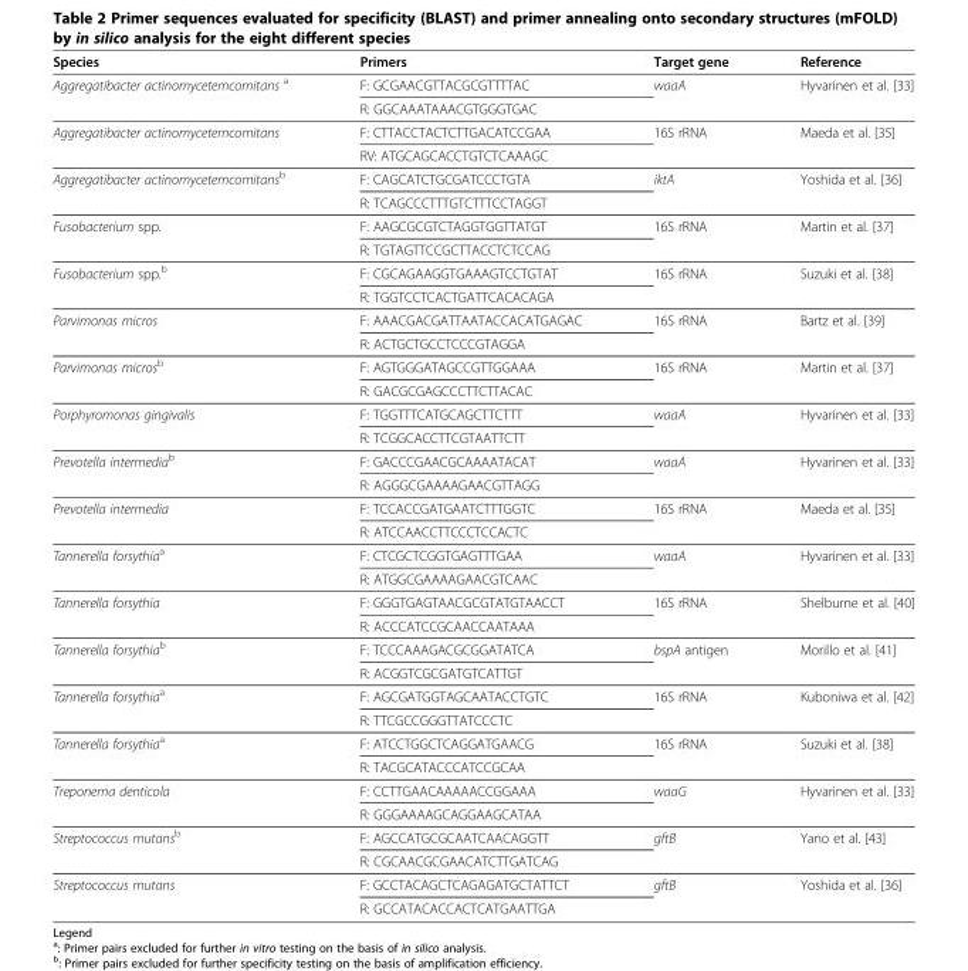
<table><thead><tr><td>Species</td><td>Primers</td><td>Target gene</td><td>Reference</td></tr></thead><tbody><tr><td rowspan="2">Aggregatibacter actinomycetemcomitans <sup>a</sup></td><td>F: GCGAACGTTACGCGTTTTAC</td><td rowspan="2">waaA</td><td rowspan="2">Hyvarinen et al. [33]</td></tr><tr><td>R: GGCAAATAAACGTGGGTGAC</td></tr><tr><td rowspan="2">Aggregatibacter actinomycetemcomitans</td><td>F: CTTACCTACTCTTGACATCCGAA</td><td rowspan="2">16S rRNA</td><td rowspan="2">Maeda et al. [35]</td></tr><tr><td>RV: ATGCAGCACCTGTCTCAAAGC</td></tr><tr><td rowspan="2">Aggregatibacter actinomycetemcomitans<sup>b</sup></td><td>F: CAGCATCTGCGATCCCTGTA</td><td rowspan="2">iktA</td><td rowspan="2">Yoshida et al. [36]</td></tr><tr><td>R: TCAGCCCTTTGTCTTTCCTAGGT</td></tr><tr><td rowspan="2">Fusobacterium spp.</td><td>F: AAGCGCGTCTAGGTGGTTATGT</td><td rowspan="2">16S rRNA</td><td rowspan="2">Martin et al. [37]</td></tr><tr><td>R: TGTAGTTCCGCTTACCTCTCCAG</td></tr><tr><td rowspan="2">Fusobacterium spp.<sup>b</sup></td><td>F: CGCAGAAGGTGAAAGTCCTGTAT</td><td rowspan="2">16S rRNA</td><td rowspan="2">Suzuki et al. [38]</td></tr><tr><td>R: TGGTCCTCACTGATTCACACAGA</td></tr><tr><td rowspan="2">Parvimonas micros</td><td>F: AAACGACGATTAATACCACATGAGAC</td><td rowspan="2">16S rRNA</td><td rowspan="2">Bartz et al. [39]</td></tr><tr><td>R: ACTGCTGCCTCCCGTAGGA</td></tr><tr><td rowspan="2">Parvimonas micros<sup>b</sup></td><td>F: AGTGGGATAGCCGTTGGAAA</td><td rowspan="2">16S rRNA</td><td rowspan="2">Martin et al. [37]</td></tr><tr><td>R: GACGCGAGCCCTTCTTACAC</td></tr><tr><td rowspan="2">Porphyromonas gingivalis</td><td>F: TGGTTTCATGCAGCTTCTTT</td><td rowspan="2">waaA</td><td rowspan="2">Hyvarinen et al. [33]</td></tr><tr><td>R: TCGGCACCTTCGTAATTCTT</td></tr><tr><td rowspan="2">Prevotella intermedia<sup>b</sup></td><td>F: GACCCGAACGCAAAATACAT</td><td rowspan="2">waaA</td><td rowspan="2">Hyvarinen et al. [33]</td></tr><tr><td>R: AGGGCGAAAAGAACGTTAGG</td></tr><tr><td rowspan="2">Prevotella intermedia</td><td>F: TCCACCGATGAATCTTTGGTC</td><td rowspan="2">16S rRNA</td><td rowspan="2">Maeda et al. [35]</td></tr><tr><td>R: ATCCAACCTTCCCTCCACTC</td></tr><tr><td rowspan="2">Tannerella forsythia<sup>a</sup></td><td>F: CTCGCTCGGTGAGTTTGAA</td><td rowspan="2">waaA</td><td rowspan="2">Hyvarinen et al. [33]</td></tr><tr><td>R: ATGGCGAAAAGAACGTCAAC</td></tr><tr><td rowspan="2">Tannerella forsythia</td><td>F: GGGTGAGTAACGCGTATGTAACCT</td><td rowspan="2">16S rRNA</td><td rowspan="2">Shelburne et al. [40]</td></tr><tr><td>R: ACCCATCCGCAACCAATAAA</td></tr><tr><td rowspan="2">Tannerella forsythia<sup>b</sup></td><td>F: TCCCAAAGACGCGGATATCA</td><td rowspan="2">bspA antigen</td><td rowspan="2">Morillo et al. [41]</td></tr><tr><td>R: ACGGTCGCGATGTCATTGT</td></tr><tr><td rowspan="2">Tannerella forsythia<sup>a</sup></td><td>F: AGCGATGGTAGCAATACCTGTC</td><td rowspan="2">16S rRNA</td><td rowspan="2">Kuboniwa et al. [42]</td></tr><tr><td>R: TTCGCCGGGTTATCCCTC</td></tr><tr><td rowspan="2">Tannerella forsythia<sup>a</sup></td><td>F: ATCCTGGCTCAGGATGAACG</td><td rowspan="2">16S rRNA</td><td rowspan="2">Suzuki et al. [38]</td></tr><tr><td>R: TACGCATACCCATCCGCAA</td></tr><tr><td rowspan="2">Treponema denticola</td><td>F: CCTTGAACAAAAACCGGAAA</td><td rowspan="2">waaG</td><td rowspan="2">Hyvarinen et al. [33]</td></tr><tr><td>R: GGGAAAAGCAGGAAGCATAA</td></tr><tr><td rowspan="2">Streptococcus mutans<sup>b</sup></td><td>F: AGCCATGCGCAATCAACAGGTT</td><td rowspan="2">gftB</td><td rowspan="2">Yano et al. [43]</td></tr><tr><td>R: CGCAACGCGAACATCTTGATCAG</td></tr><tr><td rowspan="2">Streptococcus mutans</td><td>F: GCCTACAGCTCAGAGATGCTATTCT</td><td rowspan="2">gftB</td><td rowspan="2">Yoshida et al. [36]</td></tr><tr><td>R: GCCATACACCACTCATGAATTGA</td></tr></tbody></table>